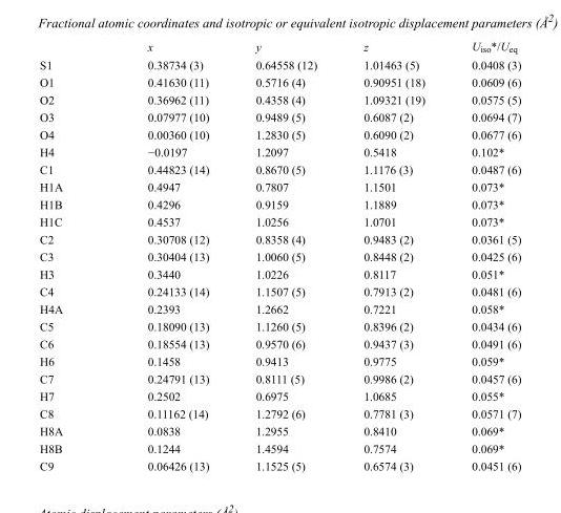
<table><thead><tr><td></td><td>x</td><td>y</td><td>z</td><td>U<sub>iso</sub>*/U<sub>eq</sub></td></tr></thead><tbody><tr><td>S1</td><td>0.38734 (3)</td><td>0.64558 (12)</td><td>1.01463 (5)</td><td>0.0408 (3)</td></tr><tr><td>O1</td><td>0.41630 (11)</td><td>0.5716 (4)</td><td>0.90951 (18)</td><td>0.0609 (6)</td></tr><tr><td>O2</td><td>0.36962 (11)</td><td>0.4358 (4)</td><td>1.09321 (19)</td><td>0.0575 (5)</td></tr><tr><td>O3</td><td>0.07977 (10)</td><td>0.9489 (5)</td><td>0.6087 (2)</td><td>0.0694 (7)</td></tr><tr><td>O4</td><td>0.00360 (10)</td><td>1.2830 (5)</td><td>0.6090 (2)</td><td>0.0677 (6)</td></tr><tr><td>H4</td><td>−0.0197</td><td>1.2097</td><td>0.5418</td><td>0.102*</td></tr><tr><td>C1</td><td>0.44823 (14)</td><td>0.8670 (5)</td><td>1.1176 (3)</td><td>0.0487 (6)</td></tr><tr><td>H1A</td><td>0.4947</td><td>0.7807</td><td>1.1501</td><td>0.073*</td></tr><tr><td>H1B</td><td>0.4296</td><td>0.9159</td><td>1.1889</td><td>0.073*</td></tr><tr><td>H1C</td><td>0.4537</td><td>1.0256</td><td>1.0701</td><td>0.073*</td></tr><tr><td>C2</td><td>0.30708 (12)</td><td>0.8358 (4)</td><td>0.9483 (2)</td><td>0.0361 (5)</td></tr><tr><td>C3</td><td>0.30404 (13)</td><td>1.0060 (5)</td><td>0.8448 (2)</td><td>0.0425 (6)</td></tr><tr><td>H3</td><td>0.3440</td><td>1.0226</td><td>0.8117</td><td>0.051*</td></tr><tr><td>C4</td><td>0.24133 (14)</td><td>1.1507 (5)</td><td>0.7913 (2)</td><td>0.0481 (6)</td></tr><tr><td>H4A</td><td>0.2393</td><td>1.2662</td><td>0.7221</td><td>0.058*</td></tr><tr><td>C5</td><td>0.18090 (13)</td><td>1.1260 (5)</td><td>0.8396 (2)</td><td>0.0434 (6)</td></tr><tr><td>C6</td><td>0.18554 (13)</td><td>0.9570 (6)</td><td>0.9437 (3)</td><td>0.0491 (6)</td></tr><tr><td>H6</td><td>0.1458</td><td>0.9413</td><td>0.9775</td><td>0.059*</td></tr><tr><td>C7</td><td>0.24791 (13)</td><td>0.8111 (5)</td><td>0.9986 (2)</td><td>0.0457 (6)</td></tr><tr><td>H7</td><td>0.2502</td><td>0.6975</td><td>1.0685</td><td>0.055*</td></tr><tr><td>C8</td><td>0.11162 (14)</td><td>1.2792 (6)</td><td>0.7781 (3)</td><td>0.0571 (7)</td></tr><tr><td>H8A</td><td>0.0838</td><td>1.2955</td><td>0.8410</td><td>0.069*</td></tr><tr><td>H8B</td><td>0.1244</td><td>1.4594</td><td>0.7574</td><td>0.069*</td></tr><tr><td>C9</td><td>0.06426 (13)</td><td>1.1525 (5)</td><td>0.6574 (3)</td><td>0.0451 (6)</td></tr></tbody></table>